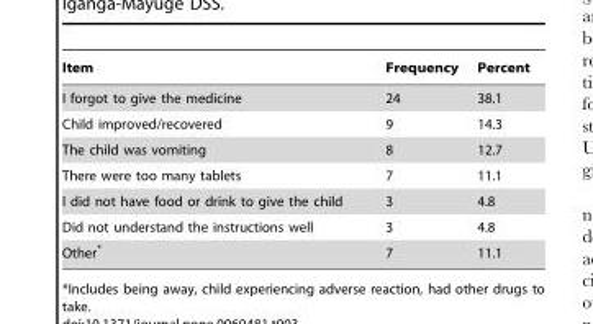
<table><thead><tr><td>Item</td><td>Frequency</td><td>Percent</td></tr></thead><tbody><tr><td>I forgot to give the medicine</td><td>24</td><td>38.1</td></tr><tr><td>Child improved/recovered</td><td>9</td><td>14.3</td></tr><tr><td>The child was vomiting</td><td>8</td><td>12.7</td></tr><tr><td>There were too many tablets</td><td>7</td><td>11.1</td></tr><tr><td>I did not have food or drink to give the child</td><td>3</td><td>4.8</td></tr><tr><td>Did not understand the instructions well</td><td>3</td><td>4.8</td></tr><tr><td>Other*</td><td>7</td><td>11.1</td></tr></tbody></table>